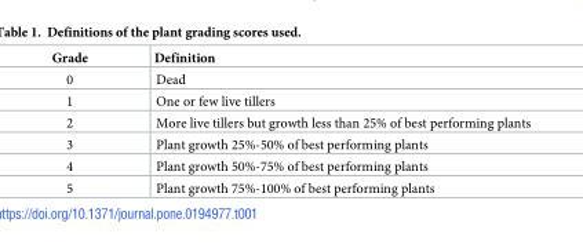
<table><thead><tr><td>Grade</td><td>Definition</td></tr></thead><tbody><tr><td>0</td><td>Dead</td></tr><tr><td>1</td><td>One or few live tillers</td></tr><tr><td>2</td><td>More live tillers but growth less than 25% of best performing plants</td></tr><tr><td>3</td><td>Plant growth 25%-50% of best performing plants</td></tr><tr><td>4</td><td>Plant growth 50%-75% of best performing plants</td></tr><tr><td>5</td><td>Plant growth 75%-100% of best performing plants</td></tr></tbody></table>